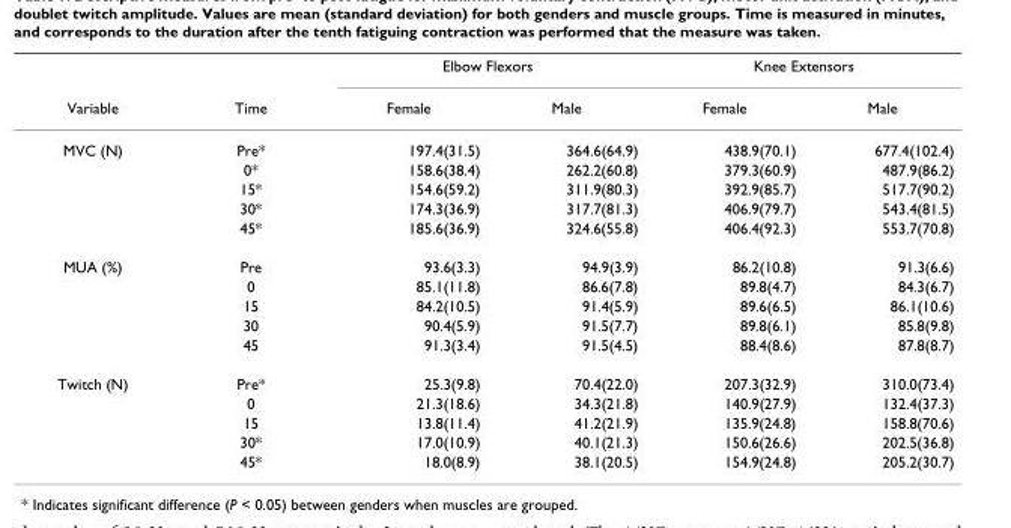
<table><thead><tr><td rowspan="2">Variable</td><td rowspan="2">Time</td><td colspan="2">Elbow Flexors</td><td colspan="2">Knee Extensors</td></tr><tr><td>Female</td><td>Male</td><td>Female</td><td>Male</td></tr></thead><tbody><tr><td rowspan="5">MVC (N)</td><td>Pre*</td><td>197.4(31.5)</td><td>364.6(64.9)</td><td>438.9(70.1)</td><td>677.4(102.4)</td></tr><tr><td>0*</td><td>158.6(38.4)</td><td>262.2(60.8)</td><td>379.3(60.9)</td><td>487.9(86.2)</td></tr><tr><td>15*</td><td>154.6(59.2)</td><td>311.9(80.3)</td><td>392.9(85.7)</td><td>517.7(90.2)</td></tr><tr><td>30*</td><td>174.3(36.9)</td><td>317.7(81.3)</td><td>406.9(79.7)</td><td>543.4(81.5)</td></tr><tr><td>45*</td><td>185.6(36.9)</td><td>324.6(55.8)</td><td>406.4(92.3)</td><td>553.7(70.8)</td></tr><tr><td rowspan="5">MUA (%)</td><td>Pre</td><td>93.6(3.3)</td><td>94.9(3.9)</td><td>86.2(10.8)</td><td>91.3(6.6)</td></tr><tr><td>0</td><td>85.1(11.8)</td><td>86.6(7.8)</td><td>89.8(4.7)</td><td>84.3(6.7)</td></tr><tr><td>15</td><td>84.2(10.5)</td><td>91.4(5.9)</td><td>89.6(6.5)</td><td>86.1(10.6)</td></tr><tr><td>30</td><td>90.4(5.9)</td><td>91.5(7.7)</td><td>89.8(6.1)</td><td>85.8(9.8)</td></tr><tr><td>45</td><td>91.3(3.4)</td><td>91.5(4.5)</td><td>88.4(8.6)</td><td>87.8(8.7)</td></tr><tr><td rowspan="5">Twitch (N)</td><td>Pre*</td><td>25.3(9.8)</td><td>70.4(22.0)</td><td>207.3(32.9)</td><td>310.0(73.4)</td></tr><tr><td>0</td><td>21.3(18.6)</td><td>34.3(21.8)</td><td>140.9(27.9)</td><td>132.4(37.3)</td></tr><tr><td>15</td><td>13.8(11.4)</td><td>41.2(21.9)</td><td>135.9(24.8)</td><td>158.8(70.6)</td></tr><tr><td>30*</td><td>17.0(10.9)</td><td>40.1(21.3)</td><td>150.6(26.6)</td><td>202.5(36.8)</td></tr><tr><td>45*</td><td>18.0(8.9)</td><td>38.1(20.5)</td><td>154.9(24.8)</td><td>205.2(30.7)</td></tr></tbody></table>